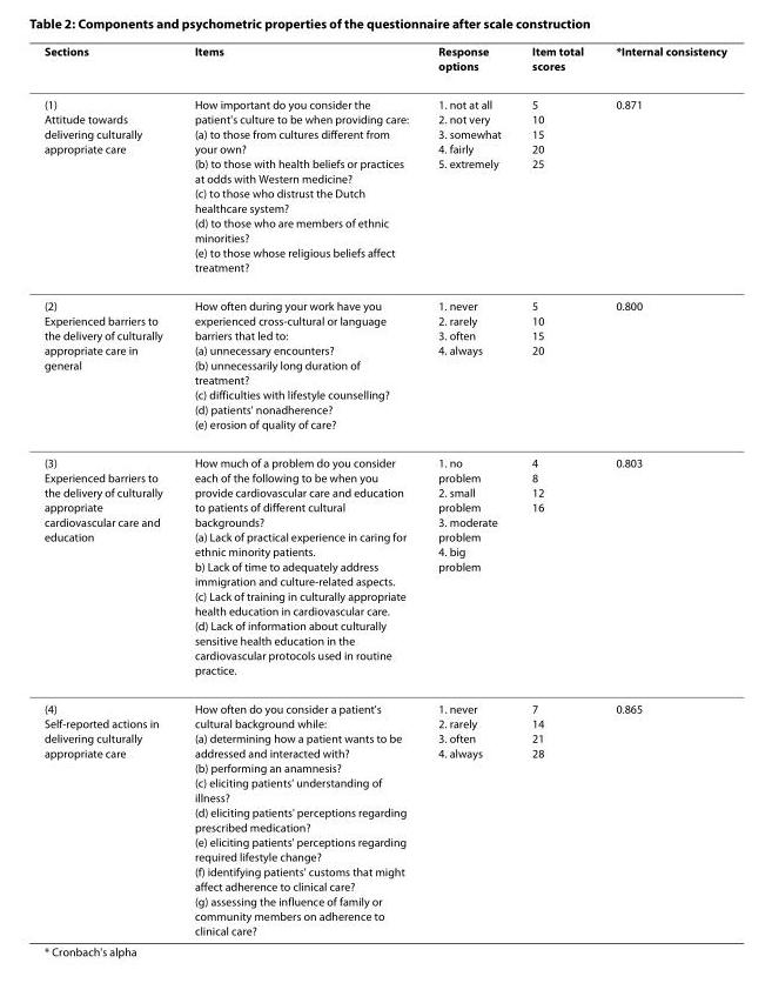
<table><thead><tr><td>Sections</td><td>Items</td><td>Response options</td><td>Item total scores</td><td>*Internal consistency</td></tr></thead><tbody><tr><td>(1) Attitude towards delivering culturally appropriate care</td><td>How important do you consider the patient&#x27;s culture to be when providing care: (a) to those from cultures different from your own? (b) to those with health beliefs or practices at odds with Western medicine? (c) to those who distrust the Dutch healthcare system? (d) to those who are members of ethnic minorities? (e) to those whose religious beliefs affect treatment?</td><td>1. not at all 2. not very 3. somewhat 4. fairly 5. extremely</td><td>5 10 15 20 25</td><td>0.871</td></tr><tr><td>(2) Experienced barriers to the delivery of culturally appropriate care in general</td><td>How often during your work have you experienced cross-cultural or language barriers that led to: (a) unnecessary encounters? (b) unnecessarily long duration of treatment? (c) difficulties with lifestyle counselling? (d) patients&#x27; nonadherence? (e) erosion of quality of care?</td><td>1. never 2. rarely 3. often 4. always</td><td>5 10 15 20</td><td>0.800</td></tr><tr><td>(3) Experienced barriers to the delivery of culturally appropriate cardiovascular care and education</td><td>How much of a problem do you consider each of the following to be when you provide cardiovascular care and education to patients of different cultural backgrounds? (a) Lack of practical experience in caring for ethnic minority patients. b) Lack of time to adequately address immigration and culture-related aspects. (c) Lack of training in culturally appropriate health education in cardiovascular care. (d) Lack of information about culturally sensitive health education in the cardiovascular protocols used in routine practice.</td><td>1. no problem 2. small problem 3. moderate problem 4. big problem</td><td>4 8 12 16</td><td>0.803</td></tr><tr><td>(4) Self-reported actions in delivering culturally appropriate care</td><td>How often do you consider a patient&#x27;s cultural background while: (a) determining how a patient wants to be addressed and interacted with? (b) performing an anamnesis? (c) eliciting patients&#x27; understanding of illness? (d) eliciting patients&#x27; perceptions regarding prescribed medication? (e) eliciting patients&#x27; perceptions regarding required lifestyle change? (f) identifying patients&#x27; customs that might affect adherence to clinical care? (g) assessing the influence of family or community members on adherence to clinical care?</td><td>1. never 2. rarely 3. often 4. always</td><td>7 14 21 28</td><td>0.865</td></tr></tbody></table>